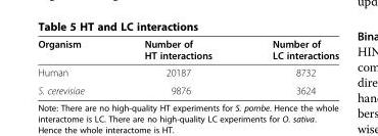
<table><thead><tr><td>Organism</td><td>Number of HT interactions</td><td>Number of LC interactions</td></tr></thead><tbody><tr><td>Human</td><td>20187</td><td>8732</td></tr><tr><td>S. cerevisiae</td><td>9876</td><td>3624</td></tr></tbody></table>